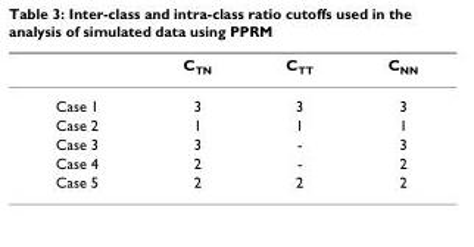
<table><thead><tr><td></td><td>C<sub>TN</sub></td><td>C<sub>TT</sub></td><td>C<sub>NN</sub></td></tr></thead><tbody><tr><td>Case 1</td><td>3</td><td>3</td><td>3</td></tr><tr><td>Case 2</td><td>1</td><td>1</td><td>1</td></tr><tr><td>Case 3</td><td>3</td><td>-</td><td>3</td></tr><tr><td>Case 4</td><td>2</td><td>-</td><td>2</td></tr><tr><td>Case 5</td><td>2</td><td>2</td><td>2</td></tr></tbody></table>